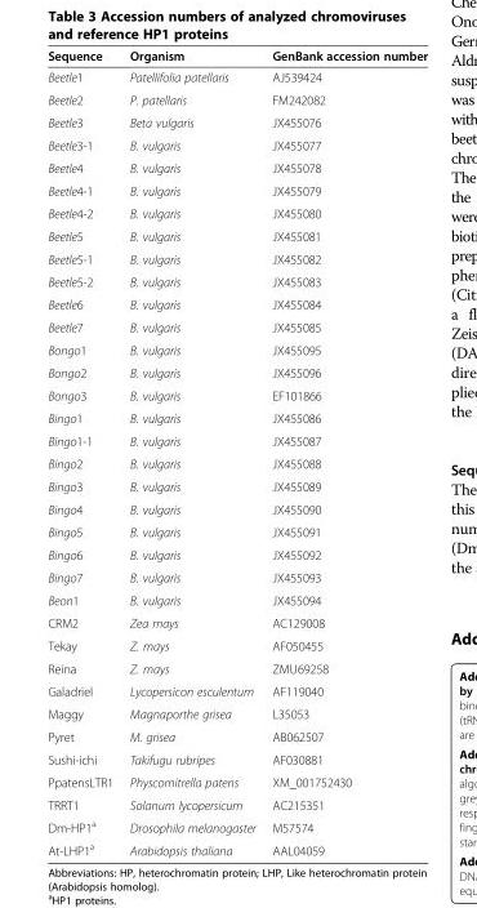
<table><thead><tr><td>Sequence</td><td>Organism</td><td>GenBank accession number</td></tr></thead><tbody><tr><td>Beetle1</td><td>Patellifolia patellaris</td><td>AJ539424</td></tr><tr><td>Beetle2</td><td>P. patellaris</td><td>FM242082</td></tr><tr><td>Beetle3</td><td>Beta vulgaris</td><td>JX455076</td></tr><tr><td>Beetle3-1</td><td>B. vulgaris</td><td>JX455077</td></tr><tr><td>Beetle4</td><td>B. vulgaris</td><td>JX455078</td></tr><tr><td>Beetle4-1</td><td>B. vulgaris</td><td>JX455079</td></tr><tr><td>Beetle4-2</td><td>B. vulgaris</td><td>JX455080</td></tr><tr><td>Beetle5</td><td>B. vulgaris</td><td>JX455081</td></tr><tr><td>Beetle5-1</td><td>B. vulgaris</td><td>JX455082</td></tr><tr><td>Beetle5-2</td><td>B. vulgaris</td><td>JX455083</td></tr><tr><td>Beetle6</td><td>B. vulgaris</td><td>JX455084</td></tr><tr><td>Beetle7</td><td>B. vulgaris</td><td>JX455085</td></tr><tr><td>Bongo1</td><td>B. vulgaris</td><td>JX455095</td></tr><tr><td>Bongo2</td><td>B. vulgaris</td><td>JX455096</td></tr><tr><td>Bongo3</td><td>B. vulgaris</td><td>EF101866</td></tr><tr><td>Bingo1</td><td>B. vulgaris</td><td>JX455086</td></tr><tr><td>Bingo1-1</td><td>B. vulgaris</td><td>JX455087</td></tr><tr><td>Bingo2</td><td>B. vulgaris</td><td>JX455088</td></tr><tr><td>Bingo3</td><td>B. vulgaris</td><td>JX455089</td></tr><tr><td>Bingo4</td><td>B. vulgaris</td><td>JX455090</td></tr><tr><td>Bingo5</td><td>B. vulgaris</td><td>JX455091</td></tr><tr><td>Bingo6</td><td>B. vulgaris</td><td>JX455092</td></tr><tr><td>Bingo7</td><td>B. vulgaris</td><td>JX455093</td></tr><tr><td>Beon1</td><td>B. vulgaris</td><td>JX455094</td></tr><tr><td>CRM2</td><td>Zea mays</td><td>AC129008</td></tr><tr><td>Tekay</td><td>Z. mays</td><td>AF050455</td></tr><tr><td>Reina</td><td>Z. mays</td><td>ZMU69258</td></tr><tr><td>Galadriel</td><td>Lycopersicon esculentum</td><td>AF119040</td></tr><tr><td>Maggy</td><td>Magnaporthe grisea</td><td>L35053</td></tr><tr><td>Pyret</td><td>M. grisea</td><td>AB062507</td></tr><tr><td>Sushi-ichi</td><td>Takifugu rubripes</td><td>AF030881</td></tr><tr><td>PpatensLTR1</td><td>Physcomitrella patens</td><td>XM_001752430</td></tr><tr><td>TRRT1</td><td>Solanum lycopersicum</td><td>AC215351</td></tr><tr><td>Dm-HP1<sup>a</sup></td><td>Drosophila melanogaster</td><td>M57574</td></tr><tr><td>At-LHP1<sup>a</sup></td><td>Arabidopsis thaliana</td><td>AAL04059</td></tr></tbody></table>